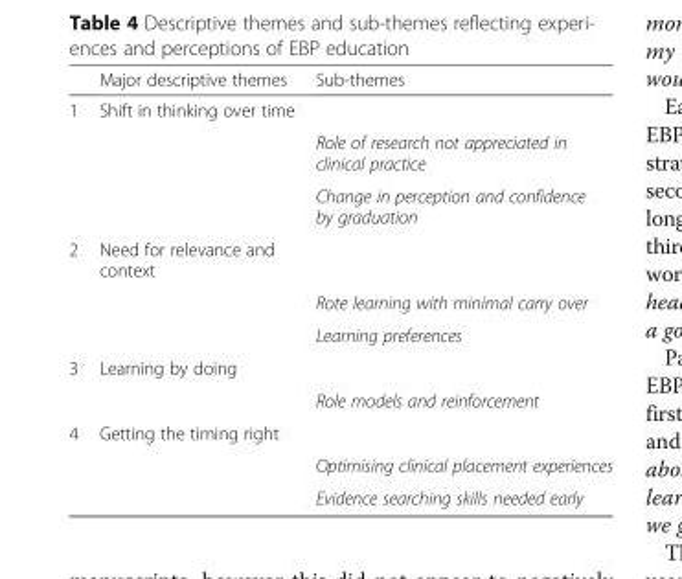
<table><thead><tr><td></td><td>Major descriptive themes</td><td>Sub-themes</td></tr></thead><tbody><tr><td rowspan="3">1</td><td>Shift in thinking over time</td><td></td></tr><tr><td></td><td>Role of research not appreciated in clinical practice</td></tr><tr><td></td><td>Change in perception and confidence by graduation</td></tr><tr><td rowspan="3">2</td><td>Need for relevance and context</td><td></td></tr><tr><td></td><td>Rote learning with minimal carry over</td></tr><tr><td></td><td>Learning preferences</td></tr><tr><td rowspan="2">3</td><td>Learning by doing</td><td></td></tr><tr><td></td><td>Role models and reinforcement</td></tr><tr><td rowspan="3">4</td><td>Getting the timing right</td><td></td></tr><tr><td></td><td>Optimising clinical placement experiences</td></tr><tr><td></td><td>Evidence searching skills needed early</td></tr></tbody></table>